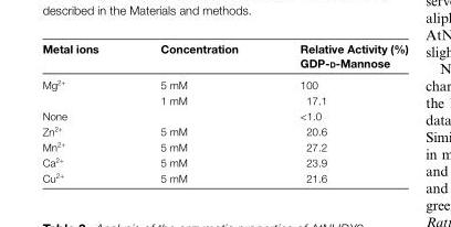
<table><thead><tr><td>Metal ions</td><td>Concentration</td><td>Relative Activity (%) GDP-d-Mannose</td></tr></thead><tbody><tr><td rowspan="2">Mg<sup>2+</sup></td><td>5 mM</td><td>100</td></tr><tr><td>1 mM</td><td>17.1</td></tr><tr><td>None</td><td></td><td>&lt;1.0</td></tr><tr><td>Zn<sup>2+</sup></td><td>5 mM</td><td>20.6</td></tr><tr><td>Mn<sup>2+</sup></td><td>5 mM</td><td>27.2</td></tr><tr><td>Ca<sup>2+</sup></td><td>5 mM</td><td>23.9</td></tr><tr><td>Cu<sup>2+</sup></td><td>5 mM</td><td>21.6</td></tr></tbody></table>